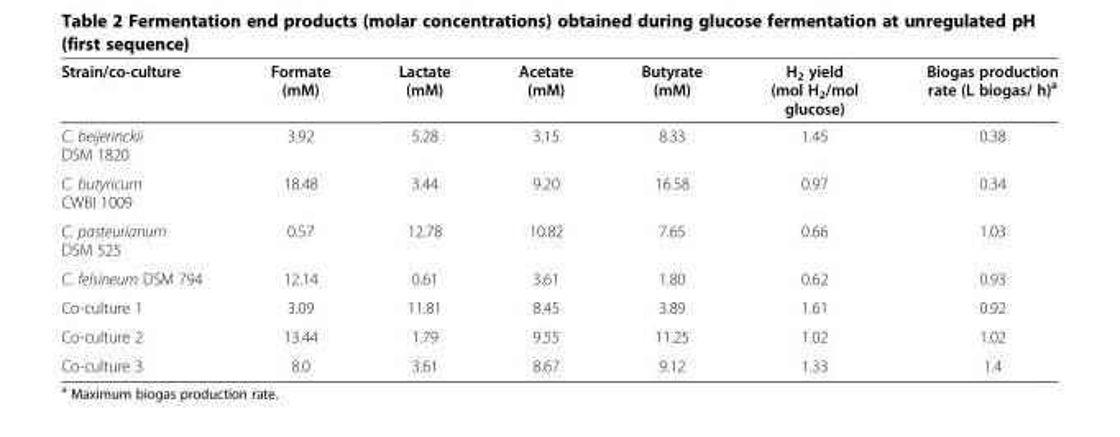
<table><thead><tr><td>Strain/co-culture</td><td>Formate (mM)</td><td>Lactate (mM)</td><td>Acetate (mM)</td><td>Butyrate (mM)</td><td>H<sub>2</sub> yield (mol H<sub>2</sub>/mol glucose)</td><td>Biogas production rate (L biogas/ h)<sup>a</sup></td></tr></thead><tbody><tr><td>C. beijerinckii DSM 1820</td><td>3.92</td><td>5.28</td><td>3.15</td><td>8.33</td><td>1.45</td><td>0.38</td></tr><tr><td>C. butyricum CWBI 1009</td><td>18.48</td><td>3.44</td><td>9.20</td><td>16.58</td><td>0.97</td><td>0.34</td></tr><tr><td>C. pasteurianum DSM 525</td><td>0.57</td><td>12.78</td><td>10.82</td><td>7.65</td><td>0.66</td><td>1.03</td></tr><tr><td>C. felsineum DSM 794</td><td>12.14</td><td>0.61</td><td>3.61</td><td>1.80</td><td>0.62</td><td>0.93</td></tr><tr><td>Co-culture 1</td><td>3.09</td><td>11.81</td><td>8.45</td><td>3.89</td><td>1.61</td><td>0.92</td></tr><tr><td>Co-culture 2</td><td>13.44</td><td>1.79</td><td>9.55</td><td>11.25</td><td>1.02</td><td>1.02</td></tr><tr><td>Co-culture 3</td><td>8.0</td><td>3.61</td><td>8.67</td><td>9.12</td><td>1.33</td><td>1.4</td></tr></tbody></table>